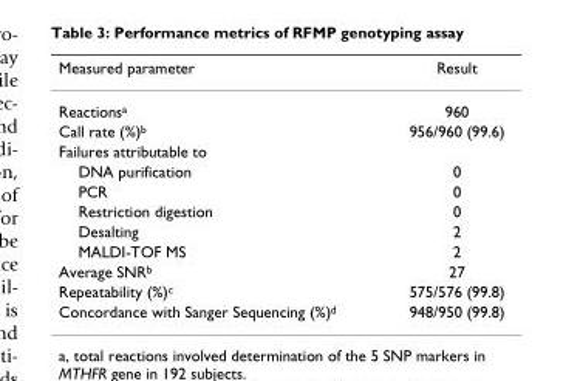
<table><thead><tr><td>Measured parameter</td><td>Result</td></tr></thead><tbody><tr><td>Reactions<sup>a</sup></td><td>960</td></tr><tr><td>Call rate (%)<sup>b</sup></td><td>956/960 (99.6)</td></tr><tr><td colspan="2">Failures attributable to</td></tr><tr><td>DNA purification</td><td>0</td></tr><tr><td>PCR</td><td>0</td></tr><tr><td>Restriction digestion</td><td>0</td></tr><tr><td>Desalting</td><td>2</td></tr><tr><td>MALDI-TOF MS</td><td>2</td></tr><tr><td>Average SNR<sup>b</sup></td><td>27</td></tr><tr><td>Repeatability (%)<sup>c</sup></td><td>575/576 (99.8)</td></tr><tr><td>Concordance with Sanger Sequencing (%)<sup>d</sup></td><td>948/950 (99.8)</td></tr></tbody></table>